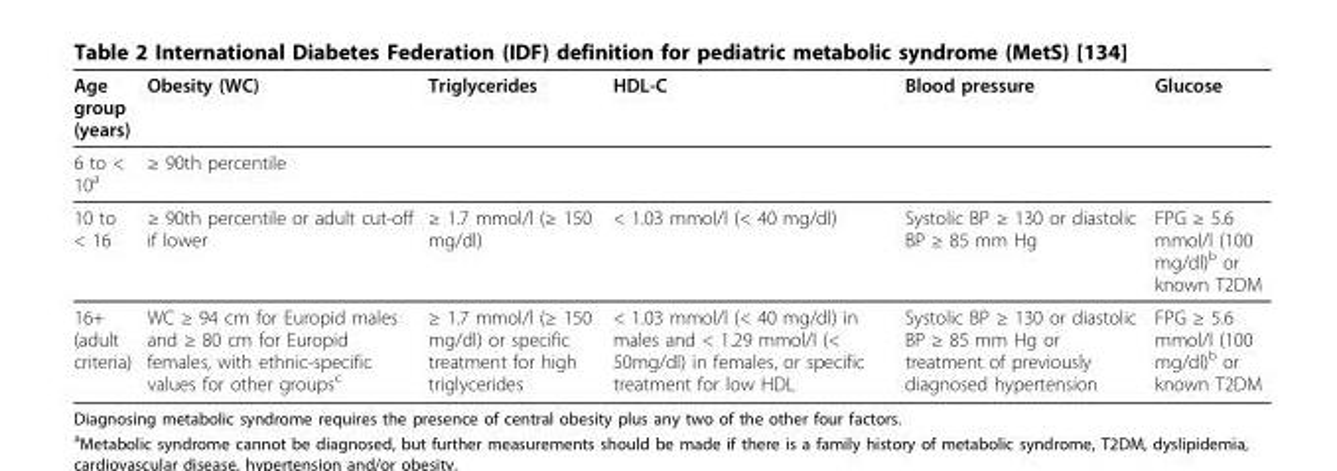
<table><thead><tr><td>Age group (years)</td><td>Obesity (WC)</td><td>Triglycerides</td><td>HDL-C</td><td>Blood pressure</td><td>Glucose</td></tr></thead><tbody><tr><td>6 to &lt; 10<sup>a</sup></td><td>≥ 90th percentile</td><td></td><td></td><td></td><td></td></tr><tr><td>10 to &lt; 16</td><td>≥ 90th percentile or adult cut-off if lower</td><td>≥ 1.7 mmol/l (≥ 150 mg/dl)</td><td>&lt; 1.03 mmol/l (&lt; 40 mg/dl)</td><td>Systolic BP ≥ 130 or diastolic BP ≥ 85 mm Hg</td><td>FPG ≥ 5.6 mmol/l (100 mg/dl)<sup>b</sup> or known T2DM</td></tr><tr><td>16+ (adult criteria)</td><td>WC ≥ 94 cm for Europid males and ≥ 80 cm for Europid females, with ethnic-specific values for other groups<sup>c</sup></td><td>≥ 1.7 mmol/l (≥ 150 mg/dl) or specific treatment for high triglycerides</td><td>&lt; 1.03 mmol/l (&lt; 40 mg/dl) in males and &lt; 1.29 mmol/l (&lt; 50mg/dl) in females, or specific treatment for low HDL</td><td>Systolic BP ≥ 130 or diastolic BP ≥ 85 mm Hg or treatment of previously diagnosed hypertension</td><td>FPG ≥ 5.6 mmol/l (100 mg/dl)<sup>b</sup> or known T2DM</td></tr></tbody></table>